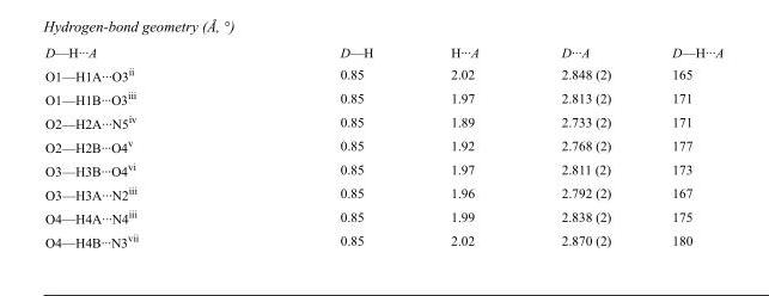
<table><tbody><tr><td>D—H···A</td><td>D—H</td><td>H···A</td><td>D···A</td><td>D—H···A</td></tr><tr><td>O1—H1A···O3<sup>ii</sup></td><td>0.85</td><td>2.02</td><td>2.848 (2)</td><td>165</td></tr><tr><td>O1—H1B···O3<sup>iii</sup></td><td>0.85</td><td>1.97</td><td>2.813 (2)</td><td>171</td></tr><tr><td>O2—H2A···N5<sup>iv</sup></td><td>0.85</td><td>1.89</td><td>2.733 (2)</td><td>171</td></tr><tr><td>O2—H2B···O4<sup>v</sup></td><td>0.85</td><td>1.92</td><td>2.768 (2)</td><td>177</td></tr><tr><td>O3—H3B···O4<sup>vi</sup></td><td>0.85</td><td>1.97</td><td>2.811 (2)</td><td>173</td></tr><tr><td>O3—H3A···N2<sup>iii</sup></td><td>0.85</td><td>1.96</td><td>2.792 (2)</td><td>167</td></tr><tr><td>O4—H4A···N4<sup>iii</sup></td><td>0.85</td><td>1.99</td><td>2.838 (2)</td><td>175</td></tr><tr><td>O4—H4B···N3<sup>vii</sup></td><td>0.85</td><td>2.02</td><td>2.870 (2)</td><td>180</td></tr></tbody></table>